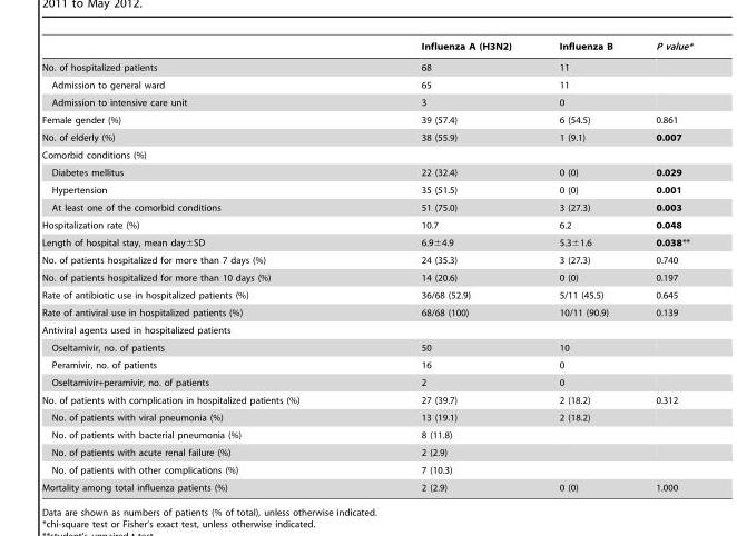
<table><thead><tr><td></td><td>Influenza A (H3N2)</td><td>Influenza B</td><td>P value*</td></tr></thead><tbody><tr><td>No. of hospitalized patients</td><td>68</td><td>11</td><td></td></tr><tr><td>Admission to general ward</td><td>65</td><td>11</td><td></td></tr><tr><td>Admission to intensive care unit</td><td>3</td><td>0</td><td></td></tr><tr><td>Female gender (%)</td><td>39 (57.4)</td><td>6 (54.5)</td><td>0.861</td></tr><tr><td>No. of elderly (%)</td><td>38 (55.9)</td><td>1 (9.1)</td><td>0.007</td></tr><tr><td colspan="4">Comorbid conditions (%)</td></tr><tr><td>Diabetes mellitus</td><td>22 (32.4)</td><td>0 (0)</td><td>0.029</td></tr><tr><td>Hypertension</td><td>35 (51.5)</td><td>0 (0)</td><td>0.001</td></tr><tr><td>At least one of the comorbid conditions</td><td>51 (75.0)</td><td>3 (27.3)</td><td>0.003</td></tr><tr><td>Hospitalization rate (%)</td><td>10.7</td><td>6.2</td><td>0.048</td></tr><tr><td>Length of hospital stay, mean day±SD</td><td>6.9±4.9</td><td>5.3±1.6</td><td>0.038**</td></tr><tr><td>No. of patients hospitalized for more than 7 days (%)</td><td>24 (35.3)</td><td>3 (27.3)</td><td>0.740</td></tr><tr><td>No. of patients hospitalized for more than 10 days (%)</td><td>14 (20.6)</td><td>0 (0)</td><td>0.197</td></tr><tr><td>Rate of antibiotic use in hospitalized patients (%)</td><td>36/68 (52.9)</td><td>5/11 (45.5)</td><td>0.645</td></tr><tr><td>Rate of antiviral use in hospitalized patients (%)</td><td>68/68 (100)</td><td>10/11 (90.9)</td><td>0.139</td></tr><tr><td colspan="4">Antiviral agents used in hospitalized patients</td></tr><tr><td>Oseltamivir, no. of patients</td><td>50</td><td>10</td><td></td></tr><tr><td>Peramivir, no. of patients</td><td>16</td><td>0</td><td></td></tr><tr><td>Oseltamivir+peramivir, no. of patients</td><td>2</td><td>0</td><td></td></tr><tr><td>No. of patients with complication in hospitalized patients (%)</td><td>27 (39.7)</td><td>2 (18.2)</td><td>0.312</td></tr><tr><td>No. of patients with viral pneumonia (%)</td><td>13 (19.1)</td><td>2 (18.2)</td><td></td></tr><tr><td>No. of patients with bacterial pneumonia (%)</td><td>8 (11.8)</td><td></td><td></td></tr><tr><td>No. of patients with acute renal failure (%)</td><td>2 (2.9)</td><td></td><td></td></tr><tr><td>No. of patients with other complications (%)</td><td>7 (10.3)</td><td></td><td></td></tr><tr><td>Mortality among total influenza patients (%)</td><td>2 (2.9)</td><td>0 (0)</td><td>1.000</td></tr></tbody></table>